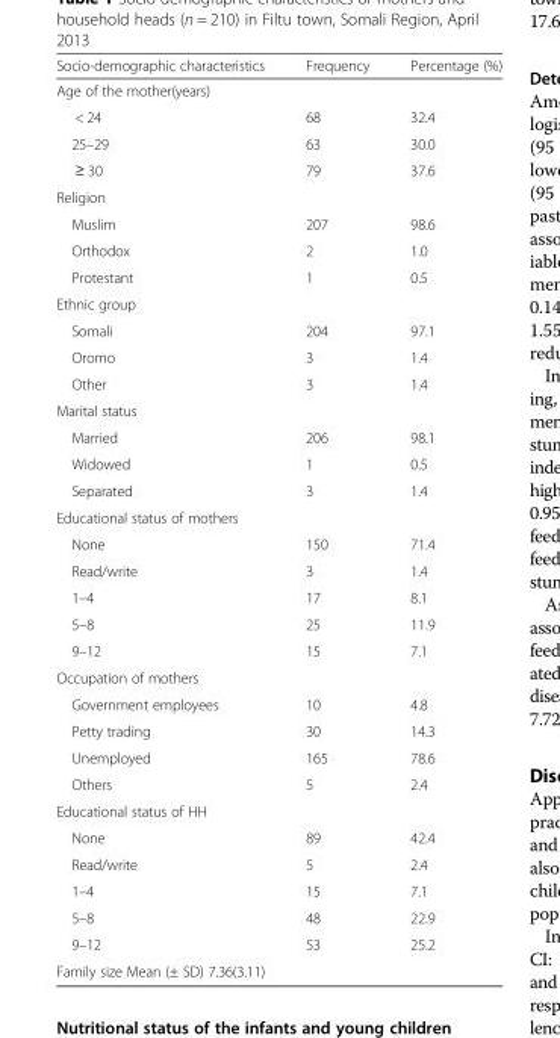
<table><thead><tr><td>Socio-demographic characteristics</td><td>Frequency</td><td>Percentage (%)</td></tr></thead><tbody><tr><td colspan="3">Age of the mother(years)</td></tr><tr><td>&lt; 24</td><td>68</td><td>32.4</td></tr><tr><td>25–29</td><td>63</td><td>30.0</td></tr><tr><td>≥ 30</td><td>79</td><td>37.6</td></tr><tr><td colspan="3">Religion</td></tr><tr><td>Muslim</td><td>207</td><td>98.6</td></tr><tr><td>Orthodox</td><td>2</td><td>1.0</td></tr><tr><td>Protestant</td><td>1</td><td>0.5</td></tr><tr><td colspan="3">Ethnic group</td></tr><tr><td>Somali</td><td>204</td><td>97.1</td></tr><tr><td>Oromo</td><td>3</td><td>1.4</td></tr><tr><td>Other</td><td>3</td><td>1.4</td></tr><tr><td colspan="3">Marital status</td></tr><tr><td>Married</td><td>206</td><td>98.1</td></tr><tr><td>Widowed</td><td>1</td><td>0.5</td></tr><tr><td>Separated</td><td>3</td><td>1.4</td></tr><tr><td colspan="3">Educational status of mothers</td></tr><tr><td>None</td><td>150</td><td>71.4</td></tr><tr><td>Read/write</td><td>3</td><td>1.4</td></tr><tr><td>1–4</td><td>17</td><td>8.1</td></tr><tr><td>5–8</td><td>25</td><td>11.9</td></tr><tr><td>9–12</td><td>15</td><td>7.1</td></tr><tr><td colspan="3">Occupation of mothers</td></tr><tr><td>Government employees</td><td>10</td><td>4.8</td></tr><tr><td>Petty trading</td><td>30</td><td>14.3</td></tr><tr><td>Unemployed</td><td>165</td><td>78.6</td></tr><tr><td>Others</td><td>5</td><td>2.4</td></tr><tr><td colspan="3">Educational status of HH</td></tr><tr><td>None</td><td>89</td><td>42.4</td></tr><tr><td>Read/write</td><td>5</td><td>2.4</td></tr><tr><td>1–4</td><td>15</td><td>7.1</td></tr><tr><td>5–8</td><td>48</td><td>22.9</td></tr><tr><td>9–12</td><td>53</td><td>25.2</td></tr><tr><td>Family size Mean (± SD) 7.36(3.11)</td><td></td><td></td></tr></tbody></table>